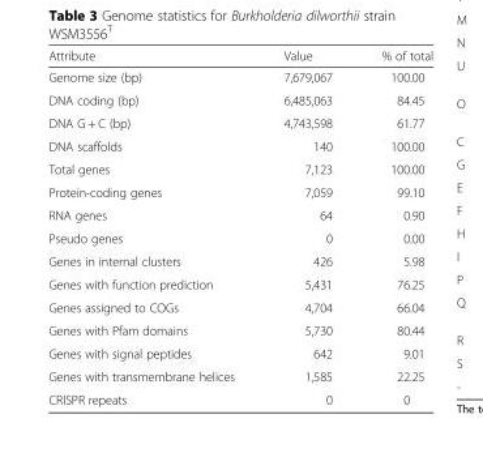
<table><thead><tr><td>Attribute</td><td>Value</td><td>% of total</td></tr></thead><tbody><tr><td>Genome size (bp)</td><td>7,679,067</td><td>100.00</td></tr><tr><td>DNA coding (bp)</td><td>6,485,063</td><td>84.45</td></tr><tr><td>DNA G + C (bp)</td><td>4,743,598</td><td>61.77</td></tr><tr><td>DNA scaffolds</td><td>140</td><td>100.00</td></tr><tr><td>Total genes</td><td>7,123</td><td>100.00</td></tr><tr><td>Protein-coding genes</td><td>7,059</td><td>99.10</td></tr><tr><td>RNA genes</td><td>64</td><td>0.90</td></tr><tr><td>Pseudo genes</td><td>0</td><td>0.00</td></tr><tr><td>Genes in internal clusters</td><td>426</td><td>5.98</td></tr><tr><td>Genes with function prediction</td><td>5,431</td><td>76.25</td></tr><tr><td>Genes assigned to COGs</td><td>4,704</td><td>66.04</td></tr><tr><td>Genes with Pfam domains</td><td>5,730</td><td>80.44</td></tr><tr><td>Genes with signal peptides</td><td>642</td><td>9.01</td></tr><tr><td>Genes with transmembrane helices</td><td>1,585</td><td>22.25</td></tr><tr><td>CRISPR repeats</td><td>0</td><td>0</td></tr></tbody></table>